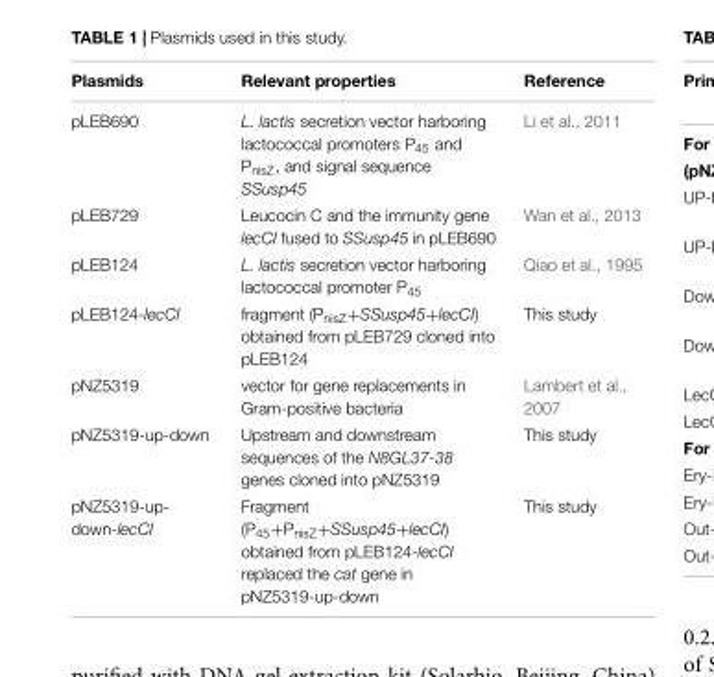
<table><thead><tr><td>Plasmids</td><td>Relevant properties</td><td>Reference</td></tr></thead><tbody><tr><td>pLEB690</td><td>L. lactis secretion vector harboring lactococcal promoters P<sub>45</sub> and P<sub>nisZ</sub>, and signal sequence SSusp45</td><td>Li et al., 2011</td></tr><tr><td>pLEB729</td><td>Leucocin C and the immunity gene lecCI fused to SSusp45 in pLEB690</td><td>Wan et al., 2013</td></tr><tr><td>pLEB124</td><td>L. lactis secretion vector harboring lactococcal promoter P<sub>45</sub></td><td>Qiao et al., 1995</td></tr><tr><td>pLEB124-lecCI</td><td>fragment (P<sub>nisZ</sub>+SSusp45+lecCI) obtained from pLEB729 cloned into pLEB124</td><td>This study</td></tr><tr><td>pNZ5319</td><td>vector for gene replacements in Gram-positive bacteria</td><td>Lambert et al., 2007</td></tr><tr><td>pNZ5319-up-down</td><td>Upstream and downstream sequences of the N8GL37-38 genes cloned into pNZ5319</td><td>This study</td></tr><tr><td>pNZ5319-up- down-lecCI</td><td>Fragment (P<sub>45</sub>+P<sub>nisZ</sub>+SSusp45+lecCI) obtained from pLEB124-lecCI replaced the cat gene in pNZ5319-up-down</td><td>This study</td></tr></tbody></table>